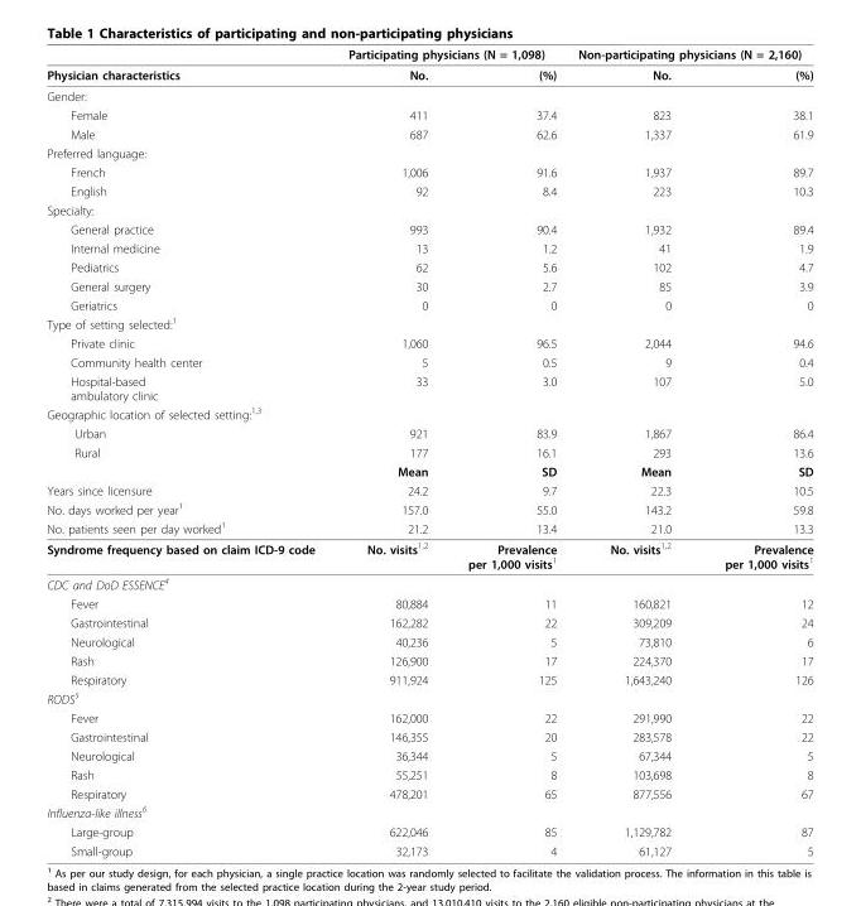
<table><thead><tr><td rowspan="2">Physician characteristics</td><td colspan="2">Participating physicians (N = 1,098)</td><td colspan="2">Non-participating physicians (N = 2,160)</td></tr><tr><td>No.</td><td>(%)</td><td>No.</td><td>(%)</td></tr></thead><tbody><tr><td colspan="5">Gender:</td></tr><tr><td>Female</td><td>411</td><td>37.4</td><td>823</td><td>38.1</td></tr><tr><td>Male</td><td>687</td><td>62.6</td><td>1,337</td><td>61.9</td></tr><tr><td colspan="5">Preferred language:</td></tr><tr><td>French</td><td>1,006</td><td>91.6</td><td>1,937</td><td>89.7</td></tr><tr><td>English</td><td>92</td><td>8.4</td><td>223</td><td>10.3</td></tr><tr><td colspan="5">Specialty:</td></tr><tr><td>General practice</td><td>993</td><td>90.4</td><td>1,932</td><td>89.4</td></tr><tr><td>Internal medicine</td><td>13</td><td>1.2</td><td>41</td><td>1.9</td></tr><tr><td>Pediatrics</td><td>62</td><td>5.6</td><td>102</td><td>4.7</td></tr><tr><td>General surgery</td><td>30</td><td>2.7</td><td>85</td><td>3.9</td></tr><tr><td>Geriatrics</td><td>0</td><td>0</td><td>0</td><td>0</td></tr><tr><td colspan="5">Type of setting selected:<sup>1</sup></td></tr><tr><td>Private clinic</td><td>1,060</td><td>96.5</td><td>2,044</td><td>94.6</td></tr><tr><td>Community health center</td><td>5</td><td>0.5</td><td>9</td><td>0.4</td></tr><tr><td>Hospital-based ambulatory clinic</td><td>33</td><td>3.0</td><td>107</td><td>5.0</td></tr><tr><td colspan="5">Geographic location of selected setting:<sup>1,3</sup></td></tr><tr><td>Urban</td><td>921</td><td>83.9</td><td>1,867</td><td>86.4</td></tr><tr><td rowspan="2">Rural</td><td>177</td><td>16.1</td><td>293</td><td>13.6</td></tr><tr><td>Mean</td><td>SD</td><td>Mean</td><td>SD</td></tr><tr><td>Years since licensure</td><td>24.2</td><td>9.7</td><td>22.3</td><td>10.5</td></tr><tr><td>No. days worked per year<sup>1</sup></td><td>157.0</td><td>55.0</td><td>143.2</td><td>59.8</td></tr><tr><td>No. patients seen per day worked<sup>1</sup></td><td>21.2</td><td>13.4</td><td>21.0</td><td>13.3</td></tr><tr><td>Syndrome frequency based on claim ICD-9 code</td><td>No. visits<sup>1,2</sup></td><td>Prevalence per 1,000 visits<sup>1</sup></td><td>No. visits<sup>1,2</sup></td><td>Prevalence per 1,000 visits<sup>1</sup></td></tr><tr><td colspan="5">CDC and DoD ESSENCE<sup>4</sup></td></tr><tr><td>Fever</td><td>80,884</td><td>11</td><td>160,821</td><td>12</td></tr><tr><td>Gastrointestinal</td><td>162,282</td><td>22</td><td>309,209</td><td>24</td></tr><tr><td>Neurological</td><td>40,236</td><td>5</td><td>73,810</td><td>6</td></tr><tr><td>Rash</td><td>126,900</td><td>17</td><td>224,370</td><td>17</td></tr><tr><td>Respiratory</td><td>911,924</td><td>125</td><td>1,643,240</td><td>126</td></tr><tr><td colspan="5">RODS<sup>5</sup></td></tr><tr><td>Fever</td><td>162,000</td><td>22</td><td>291,990</td><td>22</td></tr><tr><td>Gastrointestinal</td><td>146,355</td><td>20</td><td>283,578</td><td>22</td></tr><tr><td>Neurological</td><td>36,344</td><td>5</td><td>67,344</td><td>5</td></tr><tr><td>Rash</td><td>55,251</td><td>8</td><td>103,698</td><td>8</td></tr><tr><td>Respiratory</td><td>478,201</td><td>65</td><td>877,556</td><td>67</td></tr><tr><td colspan="5">Influenza-like illness<sup>6</sup></td></tr><tr><td>Large-group</td><td>622,046</td><td>85</td><td>1,129,782</td><td>87</td></tr><tr><td>Small-group</td><td>32,173</td><td>4</td><td>61,127</td><td>5</td></tr></tbody></table>